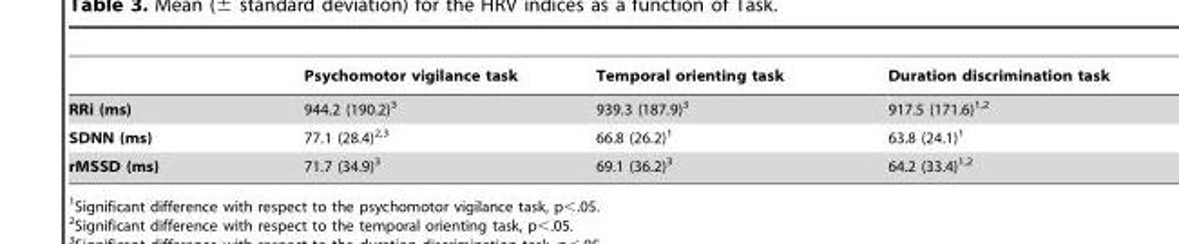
<table><thead><tr><td></td><td>Psychomotor vigilance task</td><td>Temporal orienting task</td><td>Duration discrimination task</td></tr></thead><tbody><tr><td>RRi (ms)</td><td>944.2 (190.2)<sup>3</sup></td><td>939.3 (187.9)<sup>3</sup></td><td>917.5 (171.6)<sup>1,</sup>2</td></tr><tr><td>SDNN (ms)</td><td>77.1 (28.4)<sup>2,</sup>3</td><td>66.8 (26.2)<sup>1</sup></td><td>63.8 (24.1)<sup>1</sup></td></tr><tr><td>rMSSD (ms)</td><td>71.7 (34.9)<sup>3</sup></td><td>69.1 (36.2)<sup>3</sup></td><td>64.2 (33.4)<sup>1,</sup>2</td></tr></tbody></table>